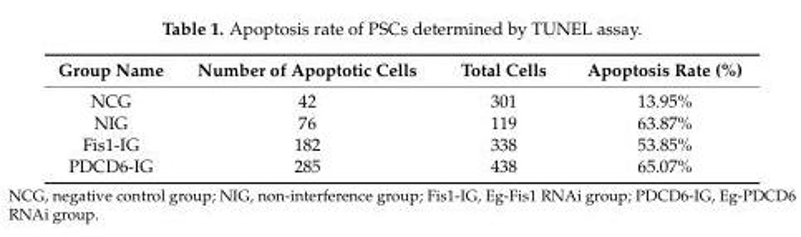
<table><thead><tr><td>Group Name</td><td>Number of Apoptotic Cells</td><td>Total Cells</td><td>Apoptosis Rate (%)</td></tr></thead><tbody><tr><td>NCG</td><td>42</td><td>301</td><td>13.95%</td></tr><tr><td>NIG</td><td>76</td><td>119</td><td>63.87%</td></tr><tr><td>Fis1-IG</td><td>182</td><td>338</td><td>53.85%</td></tr><tr><td>PDCD6-IG</td><td>285</td><td>438</td><td>65.07%</td></tr></tbody></table>